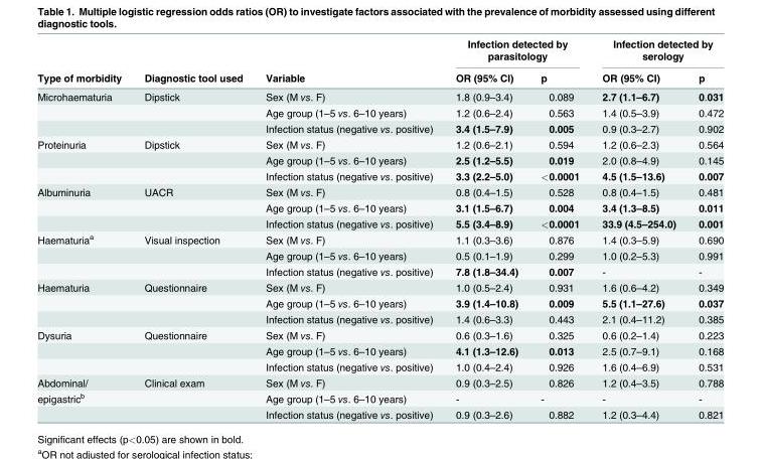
<table><thead><tr><td rowspan="2">Type of morbidity</td><td rowspan="2">Diagnostic tool used</td><td rowspan="2">Variable</td><td colspan="2">Infection detected by parasitology</td><td colspan="2">Infection detected by serology</td></tr><tr><td>OR (95% CI)</td><td>p</td><td>OR (95% CI)</td><td>p</td></tr></thead><tbody><tr><td rowspan="3">Microhaematuria</td><td>Dipstick</td><td>Sex (M vs. F)</td><td>1.8 (0.9–3.4)</td><td>0.089</td><td>2.7 (1.1–6.7)</td><td>0.031</td></tr><tr><td></td><td>Age group (1–5 vs. 6–10 years)</td><td>1.2 (0.6–2.4)</td><td>0.563</td><td>1.4 (0.5–3.9)</td><td>0.472</td></tr><tr><td></td><td>Infection status (negative vs. positive)</td><td>3.4 (1.5–7.9)</td><td>0.005</td><td>0.9 (0.3–2.7)</td><td>0.902</td></tr><tr><td rowspan="3">Proteinuria</td><td>Dipstick</td><td>Sex (M vs. F)</td><td>1.2 (0.6–2.1)</td><td>0.594</td><td>1.2 (0.6–2.3)</td><td>0.564</td></tr><tr><td></td><td>Age group (1–5 vs. 6–10 years)</td><td>2.5 (1.2–5.5)</td><td>0.019</td><td>2.0 (0.8–4.9)</td><td>0.145</td></tr><tr><td></td><td>Infection status (negative vs. positive)</td><td>3.3 (2.2–5.0)</td><td>&lt;0.0001</td><td>4.5 (1.5–13.6)</td><td>0.007</td></tr><tr><td rowspan="3">Albuminuria</td><td>UACR</td><td>Sex (M vs. F)</td><td>0.8 (0.4–1.5)</td><td>0.528</td><td>0.8 (0.4–1.5)</td><td>0.481</td></tr><tr><td></td><td>Age group (1–5 vs. 6–10 years)</td><td>3.1 (1.5–6.7)</td><td>0.004</td><td>3.4 (1.3–8.5)</td><td>0.011</td></tr><tr><td></td><td>Infection status (negative vs. positive)</td><td>5.5 (3.4–8.9)</td><td>&lt;0.0001</td><td>33.9 (4.5–254.0)</td><td>0.001</td></tr><tr><td rowspan="3">Haematuria<sup>a</sup></td><td>Visual inspection</td><td>Sex (M vs. F)</td><td>1.1 (0.3–3.6)</td><td>0.876</td><td>1.4 (0.3–5.9)</td><td>0.690</td></tr><tr><td></td><td>Age group (1–5 vs. 6–10 years)</td><td>0.5 (0.1–1.9)</td><td>0.299</td><td>1.0 (0.2–5.3)</td><td>0.991</td></tr><tr><td></td><td>Infection status (negative vs. positive)</td><td>7.8 (1.8–34.4)</td><td>0.007</td><td>-</td><td>-</td></tr><tr><td rowspan="3">Haematuria</td><td>Questionnaire</td><td>Sex (M vs. F)</td><td>1.0 (0.5–2.4)</td><td>0.931</td><td>1.6 (0.6–4.2)</td><td>0.349</td></tr><tr><td></td><td>Age group (1–5 vs. 6–10 years)</td><td>3.9 (1.4–10.8)</td><td>0.009</td><td>5.5 (1.1–27.6)</td><td>0.037</td></tr><tr><td></td><td>Infection status (negative vs. positive)</td><td>1.4 (0.6–3.3)</td><td>0.443</td><td>2.1 (0.4–11.2)</td><td>0.385</td></tr><tr><td rowspan="3">Dysuria</td><td>Questionnaire</td><td>Sex (M vs. F)</td><td>0.6 (0.3–1.6)</td><td>0.325</td><td>0.6 (0.2–1.4)</td><td>0.223</td></tr><tr><td></td><td>Age group (1–5 vs. 6–10 years)</td><td>4.1 (1.3–12.6)</td><td>0.013</td><td>2.5 (0.7–9.1)</td><td>0.168</td></tr><tr><td></td><td>Infection status (negative vs. positive)</td><td>1.0 (0.4–2.4)</td><td>0.926</td><td>1.6 (0.4–6.9)</td><td>0.531</td></tr><tr><td>Abdominal/</td><td>Clinical exam</td><td>Sex (M vs. F)</td><td>0.9 (0.3–2.5)</td><td>0.826</td><td>1.2 (0.4–3.5)</td><td>0.788</td></tr><tr><td rowspan="2">epigastric<sup>b</sup></td><td></td><td>Age group (1–5 vs. 6–10 years)</td><td>-</td><td>-</td><td>-</td><td>-</td></tr><tr><td></td><td>Infection status (negative vs. positive)</td><td>0.9 (0.3–2.6)</td><td>0.882</td><td>1.2 (0.3–4.4)</td><td>0.821</td></tr></tbody></table>